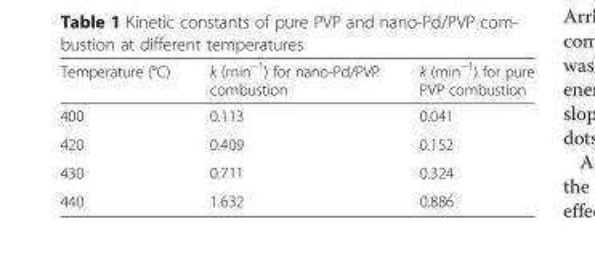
<table><thead><tr><td>Temperature (°C)</td><td>k (min<sup>−1</sup>) for nano-Pd/PVP combustion</td><td>k (min<sup>−1</sup>) for pure PVP combustion</td></tr></thead><tbody><tr><td>400</td><td>0.113</td><td>0.041</td></tr><tr><td>420</td><td>0.409</td><td>0.152</td></tr><tr><td>430</td><td>0.711</td><td>0.324</td></tr><tr><td>440</td><td>1.632</td><td>0.886</td></tr></tbody></table>